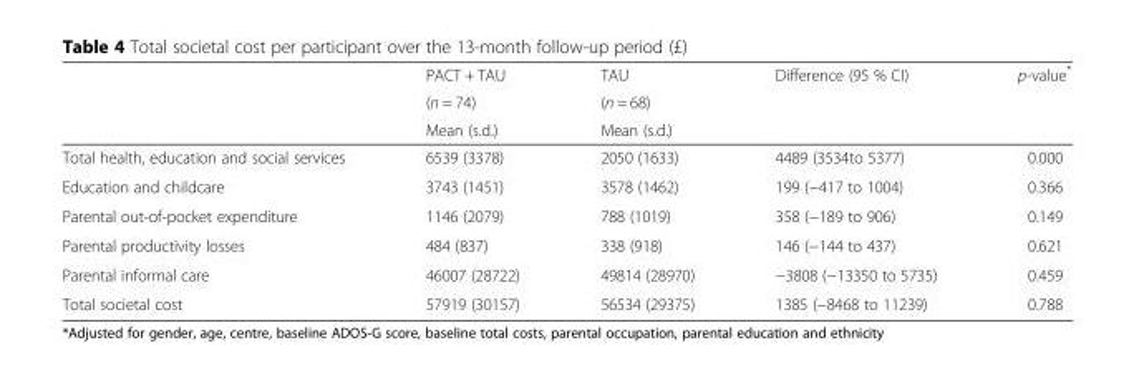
<table><thead><tr><td rowspan="3"></td><td rowspan="3">PACT + TAU (n = 74) Mean (s.d.)</td><td rowspan="3">TAU (n = 68) Mean (s.d.)</td><td rowspan="3">Difference (95 % CI)</td><td rowspan="3">p-value*</td></tr><tr></tr><tr></tr></thead><tbody><tr><td>Total health, education and social services</td><td>6539 (3378)</td><td>2050 (1633)</td><td>4489 (3534to 5377)</td><td>0.000</td></tr><tr><td>Education and childcare</td><td>3743 (1451)</td><td>3578 (1462)</td><td>199 (−417 to 1004)</td><td>0.366</td></tr><tr><td>Parental out-of-pocket expenditure</td><td>1146 (2079)</td><td>788 (1019)</td><td>358 (−189 to 906)</td><td>0.149</td></tr><tr><td>Parental productivity losses</td><td>484 (837)</td><td>338 (918)</td><td>146 (−144 to 437)</td><td>0.621</td></tr><tr><td>Parental informal care</td><td>46007 (28722)</td><td>49814 (28970)</td><td>−3808 (−13350 to 5735)</td><td>0.459</td></tr><tr><td>Total societal cost</td><td>57919 (30157)</td><td>56534 (29375)</td><td>1385 (−8468 to 11239)</td><td>0.788</td></tr></tbody></table>